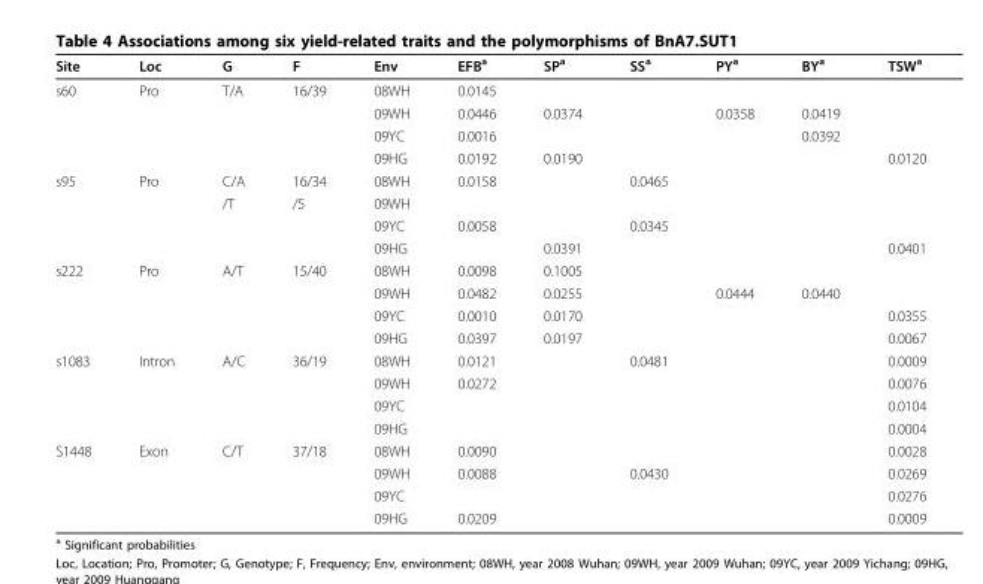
<table><thead><tr><td>Site</td><td>Loc</td><td>G</td><td>F</td><td>Env</td><td>EFB<sup>a</sup></td><td>SP<sup>a</sup></td><td>SS<sup>a</sup></td><td>PY<sup>a</sup></td><td>BY<sup>a</sup></td><td>TSW<sup>a</sup></td></tr></thead><tbody><tr><td rowspan="4">s60</td><td>Pro</td><td>T/A</td><td>16/39</td><td>08WH</td><td>0.0145</td><td></td><td></td><td></td><td></td><td></td></tr><tr><td></td><td></td><td></td><td>09WH</td><td>0.0446</td><td>0.0374</td><td></td><td>0.0358</td><td>0.0419</td><td></td></tr><tr><td></td><td></td><td></td><td>09YC</td><td>0.0016</td><td></td><td></td><td></td><td>0.0392</td><td></td></tr><tr><td></td><td></td><td></td><td>09HG</td><td>0.0192</td><td>0.0190</td><td></td><td></td><td></td><td>0.0120</td></tr><tr><td rowspan="4">s95</td><td>Pro</td><td>C/A</td><td>16/34</td><td>08WH</td><td>0.0158</td><td></td><td>0.0465</td><td></td><td></td><td></td></tr><tr><td></td><td>/T</td><td>/5</td><td>09WH</td><td></td><td></td><td></td><td></td><td></td><td></td></tr><tr><td></td><td></td><td></td><td>09YC</td><td>0.0058</td><td></td><td>0.0345</td><td></td><td></td><td></td></tr><tr><td></td><td></td><td></td><td>09HG</td><td></td><td>0.0391</td><td></td><td></td><td></td><td>0.0401</td></tr><tr><td rowspan="4">s222</td><td>Pro</td><td>A/T</td><td>15/40</td><td>08WH</td><td>0.0098</td><td>0.1005</td><td></td><td></td><td></td><td></td></tr><tr><td></td><td></td><td></td><td>09WH</td><td>0.0482</td><td>0.0255</td><td></td><td>0.0444</td><td>0.0440</td><td></td></tr><tr><td></td><td></td><td></td><td>09YC</td><td>0.0010</td><td>0.0170</td><td></td><td></td><td></td><td>0.0355</td></tr><tr><td></td><td></td><td></td><td>09HG</td><td>0.0397</td><td>0.0197</td><td></td><td></td><td></td><td>0.0067</td></tr><tr><td rowspan="4">s1083</td><td>Intron</td><td>A/C</td><td>36/19</td><td>08WH</td><td>0.0121</td><td></td><td>0.0481</td><td></td><td></td><td>0.0009</td></tr><tr><td></td><td></td><td></td><td>09WH</td><td>0.0272</td><td></td><td></td><td></td><td></td><td>0.0076</td></tr><tr><td></td><td></td><td></td><td>09YC</td><td></td><td></td><td></td><td></td><td></td><td>0.0104</td></tr><tr><td></td><td></td><td></td><td>09HG</td><td></td><td></td><td></td><td></td><td></td><td>0.0004</td></tr><tr><td rowspan="4">S1448</td><td>Exon</td><td>C/T</td><td>37/18</td><td>08WH</td><td>0.0090</td><td></td><td></td><td></td><td></td><td>0.0028</td></tr><tr><td></td><td></td><td></td><td>09WH</td><td>0.0088</td><td></td><td>0.0430</td><td></td><td></td><td>0.0269</td></tr><tr><td></td><td></td><td></td><td>09YC</td><td></td><td></td><td></td><td></td><td></td><td>0.0276</td></tr><tr><td></td><td></td><td></td><td>09HG</td><td>0.0209</td><td></td><td></td><td></td><td></td><td>0.0009</td></tr></tbody></table>